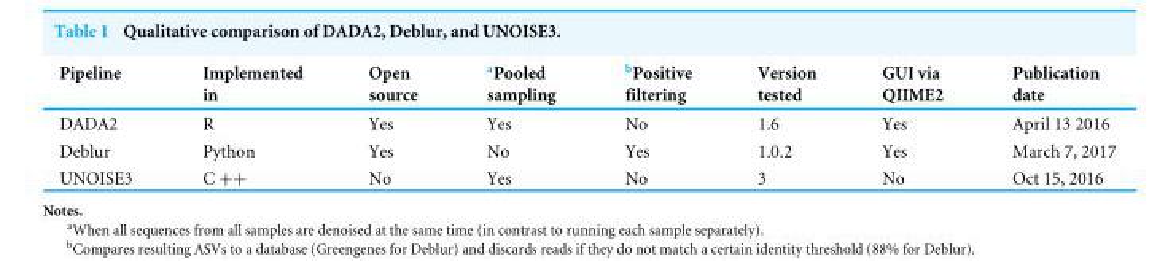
<table><thead><tr><td>Pipeline</td><td>Implemented in</td><td>Open source</td><td><sup>a</sup>Pooled sampling</td><td><sup>b</sup>Positive filtering</td><td>Version tested</td><td>GUI via QIIME2</td><td>Publication date</td></tr></thead><tbody><tr><td>DADA2</td><td>R</td><td>Yes</td><td>Yes</td><td>No</td><td>1.6</td><td>Yes</td><td>April 13 2016</td></tr><tr><td>Deblur</td><td>Python</td><td>Yes</td><td>No</td><td>Yes</td><td>1.0.2</td><td>Yes</td><td>March 7, 2017</td></tr><tr><td>UNOISE3</td><td>C ++</td><td>No</td><td>Yes</td><td>No</td><td>3</td><td>No</td><td>Oct 15, 2016</td></tr></tbody></table>